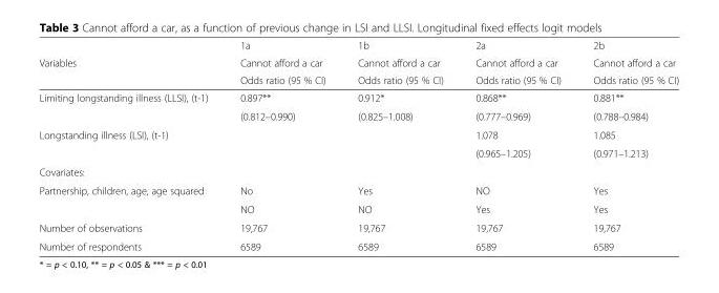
<table><thead><tr><td rowspan="3">Variables</td><td rowspan="3">1a Cannot afford a car Odds ratio (95 % CI)</td><td rowspan="3">1b Cannot afford a car Odds ratio (95 % CI)</td><td rowspan="3">2a Cannot afford a car Odds ratio (95 % CI)</td><td rowspan="3">2b Cannot afford a car Odds ratio (95 % CI)</td></tr><tr></tr><tr></tr></thead><tbody><tr><td rowspan="2">Limiting longstanding illness (LLSI), (t-1)</td><td>0.897**</td><td>0.912*</td><td>0.868**</td><td>0.881**</td></tr><tr><td>(0.812–0.990)</td><td>(0.825–1.008)</td><td>(0.777–0.969)</td><td>(0.788–0.984)</td></tr><tr><td rowspan="2">Longstanding illness (LSI), (t-1)</td><td></td><td></td><td>1.078</td><td>1.085</td></tr><tr><td></td><td></td><td>(0.965–1.205)</td><td>(0.971–1.213)</td></tr><tr><td colspan="5">Covariates:</td></tr><tr><td rowspan="2">Partnership, children, age, age squared</td><td>No</td><td>Yes</td><td>NO</td><td>Yes</td></tr><tr><td>NO</td><td>NO</td><td>Yes</td><td>Yes</td></tr><tr><td>Number of observations</td><td>19,767</td><td>19,767</td><td>19,767</td><td>19,767</td></tr><tr><td>Number of respondents</td><td>6589</td><td>6589</td><td>6589</td><td>6589</td></tr></tbody></table>